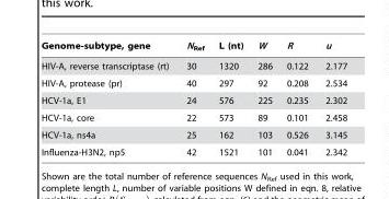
<table><thead><tr><td>Genome-subtype, gene</td><td>N<sub>Ref</sub></td><td>L (nt)</td><td>W</td><td>R</td><td>u</td></tr></thead><tbody><tr><td>HIV-A, reverse transcriptase (rt)</td><td>30</td><td>1320</td><td>286</td><td>0.122</td><td>2.177</td></tr><tr><td>HIV-A, protease (pr)</td><td>40</td><td>297</td><td>92</td><td>0.208</td><td>2.534</td></tr><tr><td>HCV-1a, E1</td><td>24</td><td>576</td><td>225</td><td>0.235</td><td>2.302</td></tr><tr><td>HCV-1a, core</td><td>22</td><td>573</td><td>89</td><td>0.101</td><td>2.458</td></tr><tr><td>HCV-1a, ns4a</td><td>25</td><td>162</td><td>103</td><td>0.526</td><td>3.145</td></tr><tr><td>Influenza-H3N2, np5</td><td>42</td><td>1521</td><td>101</td><td>0.041</td><td>2.342</td></tr></tbody></table>